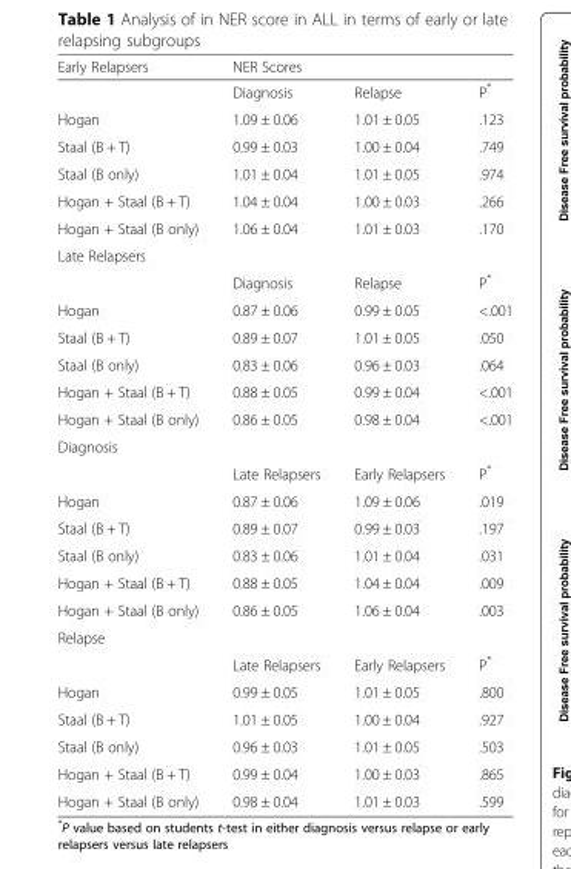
<table><thead><tr><td rowspan="2">Early Relapsers</td><td colspan="2">NER Scores</td><td rowspan="2">P*</td></tr><tr><td>Diagnosis</td><td>Relapse</td></tr></thead><tbody><tr><td>Hogan</td><td>1.09 ± 0.06</td><td>1.01 ± 0.05</td><td>.123</td></tr><tr><td>Staal (B + T)</td><td>0.99 ± 0.03</td><td>1.00 ± 0.04</td><td>.749</td></tr><tr><td>Staal (B only)</td><td>1.01 ± 0.04</td><td>1.01 ± 0.05</td><td>.974</td></tr><tr><td>Hogan + Staal (B + T)</td><td>1.04 ± 0.04</td><td>1.00 ± 0.03</td><td>.266</td></tr><tr><td>Hogan + Staal (B only)</td><td>1.06 ± 0.04</td><td>1.01 ± 0.03</td><td>.170</td></tr><tr><td colspan="4">Late Relapsers</td></tr><tr><td></td><td>Diagnosis</td><td>Relapse</td><td>P*</td></tr><tr><td>Hogan</td><td>0.87 ± 0.06</td><td>0.99 ± 0.05</td><td>&lt;.001</td></tr><tr><td>Staal (B + T)</td><td>0.89 ± 0.07</td><td>1.01 ± 0.05</td><td>.050</td></tr><tr><td>Staal (B only)</td><td>0.83 ± 0.06</td><td>0.96 ± 0.03</td><td>.064</td></tr><tr><td>Hogan + Staal (B + T)</td><td>0.88 ± 0.05</td><td>0.99 ± 0.04</td><td>&lt;.001</td></tr><tr><td>Hogan + Staal (B only)</td><td>0.86 ± 0.05</td><td>0.98 ± 0.04</td><td>&lt;.001</td></tr><tr><td colspan="4">Diagnosis</td></tr><tr><td></td><td>Late Relapsers</td><td>Early Relapsers</td><td>P*</td></tr><tr><td>Hogan</td><td>0.87 ± 0.06</td><td>1.09 ± 0.06</td><td>.019</td></tr><tr><td>Staal (B + T)</td><td>0.89 ± 0.07</td><td>0.99 ± 0.03</td><td>.197</td></tr><tr><td>Staal (B only)</td><td>0.83 ± 0.06</td><td>1.01 ± 0.04</td><td>.031</td></tr><tr><td>Hogan + Staal (B + T)</td><td>0.88 ± 0.05</td><td>1.04 ± 0.04</td><td>.009</td></tr><tr><td>Hogan + Staal (B only)</td><td>0.86 ± 0.05</td><td>1.06 ± 0.04</td><td>.003</td></tr><tr><td colspan="4">Relapse</td></tr><tr><td></td><td>Late Relapsers</td><td>Early Relapsers</td><td>P*</td></tr><tr><td>Hogan</td><td>0.99 ± 0.05</td><td>1.01 ± 0.05</td><td>.800</td></tr><tr><td>Staal (B + T)</td><td>1.01 ± 0.05</td><td>1.00 ± 0.04</td><td>.927</td></tr><tr><td>Staal (B only)</td><td>0.96 ± 0.03</td><td>1.01 ± 0.05</td><td>.503</td></tr><tr><td>Hogan + Staal (B + T)</td><td>0.99 ± 0.04</td><td>1.00 ± 0.03</td><td>.865</td></tr><tr><td>Hogan + Staal (B only)</td><td>0.98 ± 0.04</td><td>1.01 ± 0.03</td><td>.599</td></tr></tbody></table>